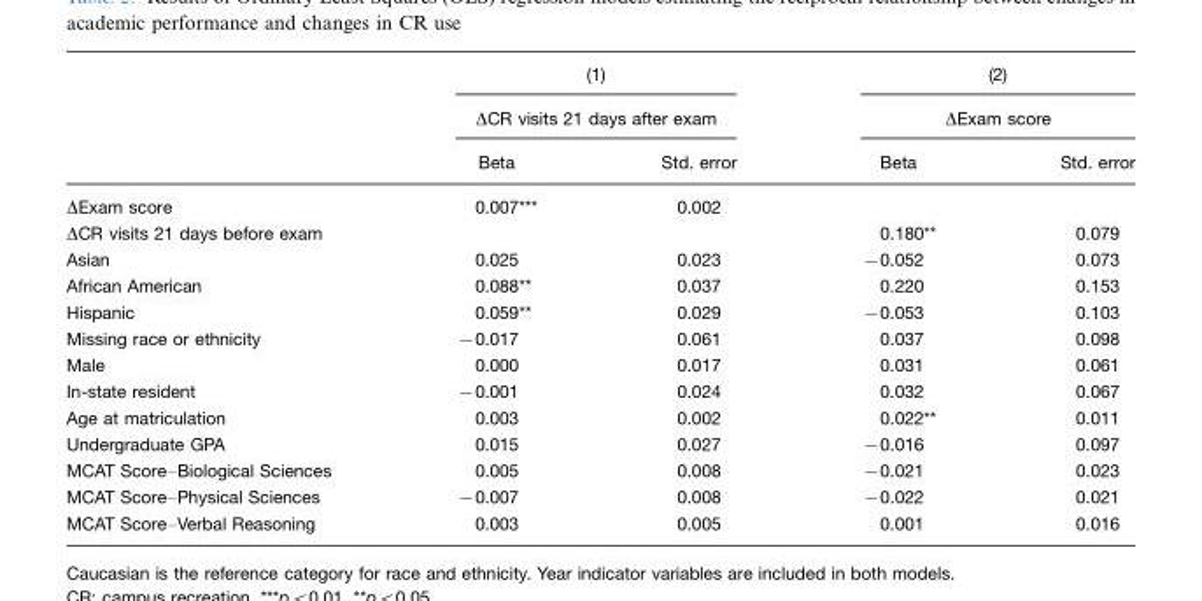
<table><thead><tr><td rowspan="3"></td><td rowspan="2" colspan="2">(1) ΔCR visits 21 days after exam</td><td rowspan="2" colspan="2">(2) ΔExam score</td></tr><tr></tr><tr><td>Beta</td><td>Std. error</td><td>Beta</td><td>Std. error</td></tr></thead><tbody><tr><td>ΔExam score</td><td>0.007***</td><td>0.002</td><td></td><td></td></tr><tr><td>ΔCR visits 21 days before exam</td><td></td><td></td><td>0.180**</td><td>0.079</td></tr><tr><td>Asian</td><td>0.025</td><td>0.023</td><td>−0.052</td><td>0.073</td></tr><tr><td>African American</td><td>0.088**</td><td>0.037</td><td>0.220</td><td>0.153</td></tr><tr><td>Hispanic</td><td>0.059**</td><td>0.029</td><td>−0.053</td><td>0.103</td></tr><tr><td>Missing race or ethnicity</td><td>−0.017</td><td>0.061</td><td>0.037</td><td>0.098</td></tr><tr><td>Male</td><td>0.000</td><td>0.017</td><td>0.031</td><td>0.061</td></tr><tr><td>In-state resident</td><td>−0.001</td><td>0.024</td><td>0.032</td><td>0.067</td></tr><tr><td>Age at matriculation</td><td>0.003</td><td>0.002</td><td>0.022**</td><td>0.011</td></tr><tr><td>Undergraduate GPA</td><td>0.015</td><td>0.027</td><td>−0.016</td><td>0.097</td></tr><tr><td>MCAT Score–Biological Sciences</td><td>0.005</td><td>0.008</td><td>−0.021</td><td>0.023</td></tr><tr><td>MCAT Score–Physical Sciences</td><td>−0.007</td><td>0.008</td><td>−0.022</td><td>0.021</td></tr><tr><td>MCAT Score–Verbal Reasoning</td><td>0.003</td><td>0.005</td><td>0.001</td><td>0.016</td></tr></tbody></table>